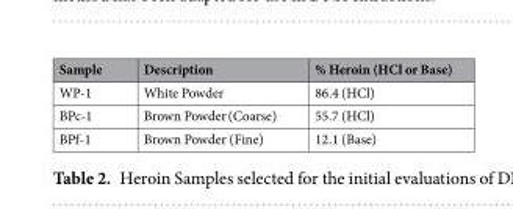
<table><thead><tr><td>Sample</td><td>Description</td><td>% Heroin (HCl or Base)</td></tr></thead><tbody><tr><td>WP-1</td><td>White Powder</td><td>86.4 (HCl)</td></tr><tr><td>BPc-1</td><td>Brown Powder (Coarse)</td><td>55.7 (HCl)</td></tr><tr><td>BPf-1</td><td>Brown Powder (Fine)</td><td>12.1 (Base)</td></tr></tbody></table>